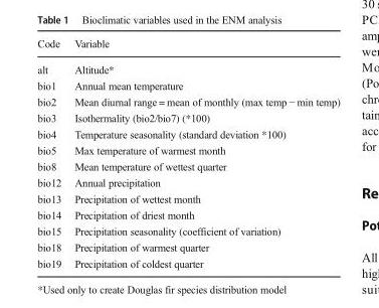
<table><thead><tr><td>Code</td><td>Variable</td></tr></thead><tbody><tr><td>alt</td><td>Altitude*</td></tr><tr><td>bio1</td><td>Annual mean temperature</td></tr><tr><td>bio2</td><td>Mean diurnal range = mean of monthly (max temp − min temp)</td></tr><tr><td>bio3</td><td>Isothermality (bio2/bio7) (*100)</td></tr><tr><td>bio4</td><td>Temperature seasonality (standard deviation *100)</td></tr><tr><td>bio5</td><td>Max temperature of warmest month</td></tr><tr><td>bio8</td><td>Mean temperature of wettest quarter</td></tr><tr><td>bio12</td><td>Annual precipitation</td></tr><tr><td>bio13</td><td>Precipitation of wettest month</td></tr><tr><td>bio14</td><td>Precipitation of driest month</td></tr><tr><td>bio15</td><td>Precipitation seasonality (coefficient of variation)</td></tr><tr><td>bio18</td><td>Precipitation of warmest quarter</td></tr><tr><td>bio19</td><td>Precipitation of coldest quarter</td></tr></tbody></table>